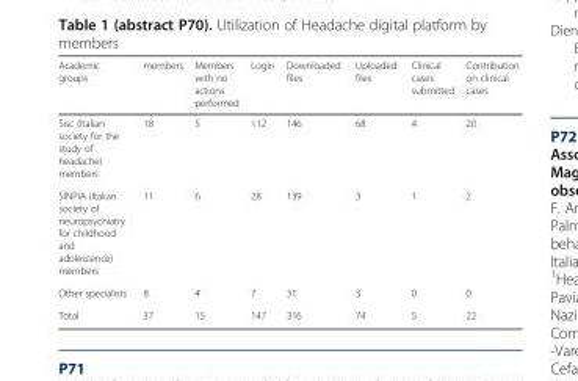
<table><thead><tr><td>Academic groups</td><td>members</td><td>Members with no actions performed</td><td>Login</td><td>Downloaded files</td><td>Uploaded files</td><td>Clinical cases submitted</td><td>Contribution on clinical cases</td></tr></thead><tbody><tr><td>Sisc (Italian society for the study of headache) members</td><td>18</td><td>5</td><td>112</td><td>146</td><td>68</td><td>4</td><td>20</td></tr><tr><td>SINPIA (Italian society of neuropsychiatry for childhood and adolescence) members</td><td>11</td><td>6</td><td>28</td><td>139</td><td>3</td><td>1</td><td>2</td></tr><tr><td>Other specialists</td><td>8</td><td>4</td><td>7</td><td>31</td><td>3</td><td>0</td><td>0</td></tr><tr><td>Total</td><td>37</td><td>15</td><td>147</td><td>316</td><td>74</td><td>5</td><td>22</td></tr></tbody></table>